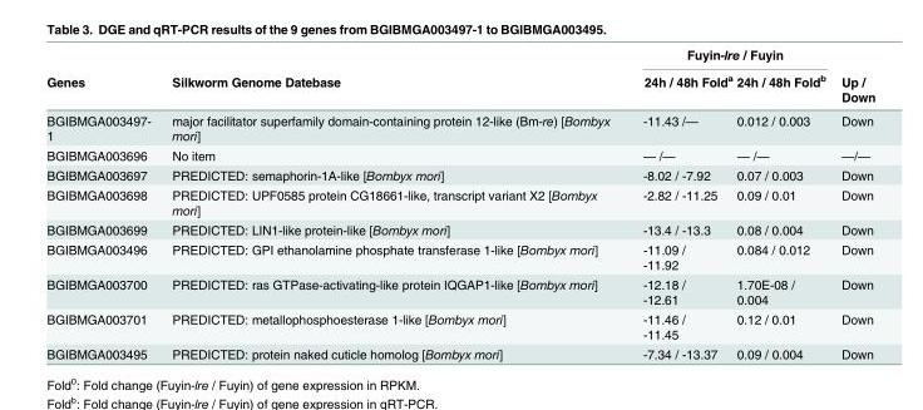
<table><thead><tr><td rowspan="3">Genes BGIBMGA003497- 1</td><td rowspan="3">Silkworm Genome Datebase major facilitator superfamily domain-containing protein 12-like (Bm-re) [Bombyx mori]</td><td rowspan="2" colspan="2">Fuyin-lre / Fuyin 24h / 48h Fold<sup>a</sup> 24h / 48h Fold<sup>b</sup></td><td rowspan="3">Up / Down Down</td></tr><tr></tr><tr><td>-11.43 /—</td><td>0.012 / 0.003</td></tr></thead><tbody><tr><td>BGIBMGA003696</td><td>No item</td><td>— /—</td><td>— /—</td><td>—/—</td></tr><tr><td>BGIBMGA003697</td><td>PREDICTED: semaphorin-1A-like [Bombyx mori]</td><td>-8.02 / -7.92</td><td>0.07 / 0.003</td><td>Down</td></tr><tr><td>BGIBMGA003698</td><td>PREDICTED: UPF0585 protein CG18661-like, transcript variant X2 [Bombyx mori]</td><td>-2.82 / -11.25</td><td>0.09 / 0.01</td><td>Down</td></tr><tr><td>BGIBMGA003699</td><td>PREDICTED: LIN1-like protein-like [Bombyx mori]</td><td>-13.4 / -13.3</td><td>0.08 / 0.004</td><td>Down</td></tr><tr><td>BGIBMGA003496</td><td>PREDICTED: GPI ethanolamine phosphate transferase 1-like [Bombyx mori]</td><td>-11.09 / -11.92</td><td>0.084 / 0.012</td><td>Down</td></tr><tr><td>BGIBMGA003700</td><td>PREDICTED: ras GTPase-activating-like protein IQGAP1-like [Bombyx mori]</td><td>-12.18 / -12.61</td><td>1.70E-08 / 0.004</td><td>Down</td></tr><tr><td>BGIBMGA003701</td><td>PREDICTED: metallophosphoesterase 1-like [Bombyx mori]</td><td>-11.46 / -11.45</td><td>0.12 / 0.01</td><td>Down</td></tr><tr><td>BGIBMGA003495</td><td>PREDICTED: protein naked cuticle homolog [Bombyx mori]</td><td>-7.34 / -13.37</td><td>0.09 / 0.004</td><td>Down</td></tr></tbody></table>